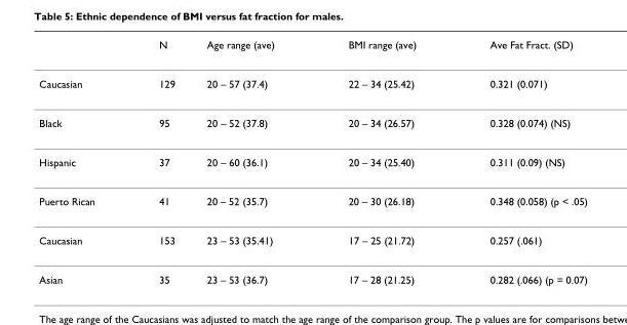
<table><thead><tr><td></td><td>N</td><td>Age range (ave)</td><td>BMI range (ave)</td><td>Ave Fat Fract. (SD)</td></tr></thead><tbody><tr><td>Caucasian</td><td>129</td><td>20 – 57 (37.4)</td><td>22 – 34 (25.42)</td><td>0.321 (0.071)</td></tr><tr><td>Black</td><td>95</td><td>20 – 52 (37.8)</td><td>20 – 34 (26.57)</td><td>0.328 (0.074) (NS)</td></tr><tr><td>Hispanic</td><td>37</td><td>20 – 60 (36.1)</td><td>20 – 34 (25.40)</td><td>0.311 (0.09) (NS)</td></tr><tr><td>Puerto Rican</td><td>41</td><td>20 – 52 (35.7)</td><td>20 – 30 (26.18)</td><td>0.348 (0.058) (p &lt; .05)</td></tr><tr><td>Caucasian</td><td>153</td><td>23 – 53 (35.41)</td><td>17 – 25 (21.72)</td><td>0.257 (.061)</td></tr><tr><td>Asian</td><td>35</td><td>23 – 53 (36.7)</td><td>17 – 28 (21.25)</td><td>0.282 (.066) (p = 0.07)</td></tr></tbody></table>